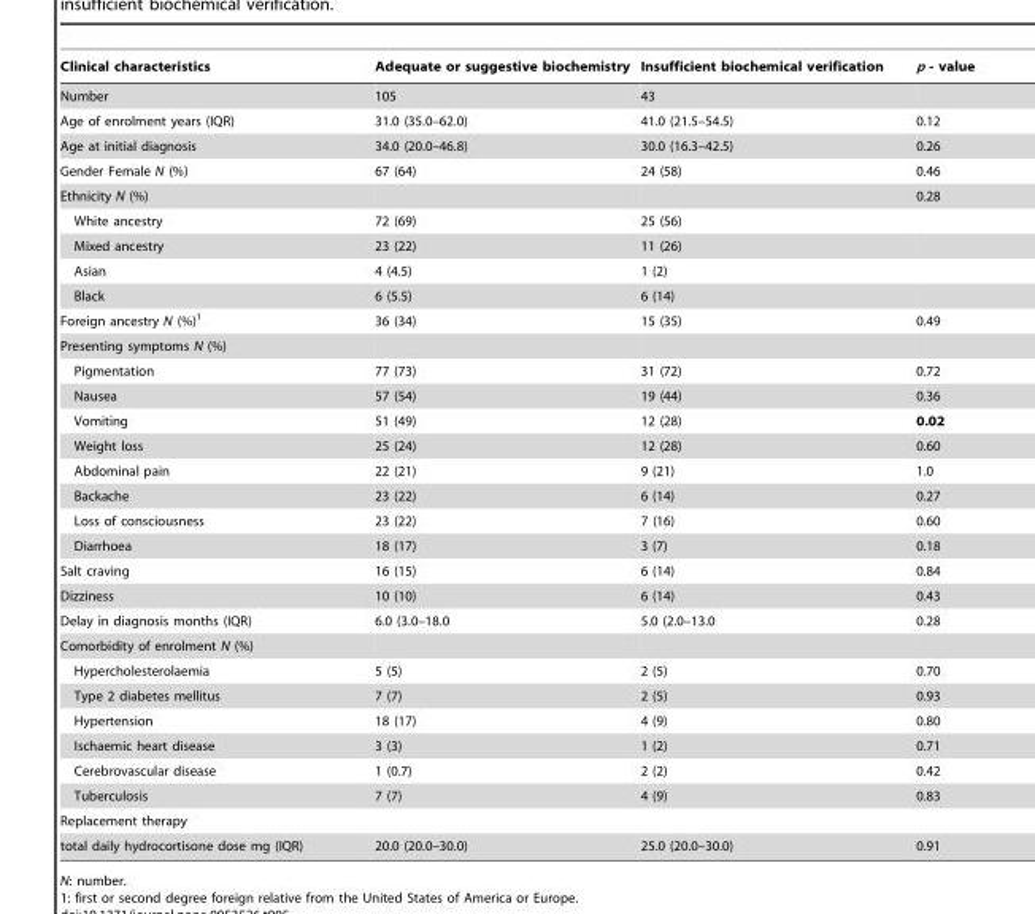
<table><thead><tr><td>Clinical characteristics</td><td>Adequate or suggestive biochemistry</td><td>Insufficient biochemical verification</td><td>p - value</td></tr></thead><tbody><tr><td>Number</td><td>105</td><td>43</td><td></td></tr><tr><td>Age of enrolment years (IQR)</td><td>31.0 (35.0–62.0)</td><td>41.0 (21.5–54.5)</td><td>0.12</td></tr><tr><td>Age at initial diagnosis</td><td>34.0 (20.0–46.8)</td><td>30.0 (16.3–42.5)</td><td>0.26</td></tr><tr><td>Gender Female N (%)</td><td>67 (64)</td><td>24 (58)</td><td>0.46</td></tr><tr><td>Ethnicity N (%)</td><td></td><td></td><td>0.28</td></tr><tr><td>White ancestry</td><td>72 (69)</td><td>25 (56)</td><td></td></tr><tr><td>Mixed ancestry</td><td>23 (22)</td><td>11 (26)</td><td></td></tr><tr><td>Asian</td><td>4 (4.5)</td><td>1 (2)</td><td></td></tr><tr><td>Black</td><td>6 (5.5)</td><td>6 (14)</td><td></td></tr><tr><td>Foreign ancestry N (%)<sup>1</sup></td><td>36 (34)</td><td>15 (35)</td><td>0.49</td></tr><tr><td colspan="4">Presenting symptoms N (%)</td></tr><tr><td>Pigmentation</td><td>77 (73)</td><td>31 (72)</td><td>0.72</td></tr><tr><td>Nausea</td><td>57 (54)</td><td>19 (44)</td><td>0.36</td></tr><tr><td>Vomiting</td><td>51 (49)</td><td>12 (28)</td><td>0.02</td></tr><tr><td>Weight loss</td><td>25 (24)</td><td>12 (28)</td><td>0.60</td></tr><tr><td>Abdominal pain</td><td>22 (21)</td><td>9 (21)</td><td>1.0</td></tr><tr><td>Backache</td><td>23 (22)</td><td>6 (14)</td><td>0.27</td></tr><tr><td>Loss of consciousness</td><td>23 (22)</td><td>7 (16)</td><td>0.60</td></tr><tr><td>Diarrhoea</td><td>18 (17)</td><td>3 (7)</td><td>0.18</td></tr><tr><td>Salt craving</td><td>16 (15)</td><td>6 (14)</td><td>0.84</td></tr><tr><td>Dizziness</td><td>10 (10)</td><td>6 (14)</td><td>0.43</td></tr><tr><td>Delay in diagnosis months (IQR)</td><td>6.0 (3.0–18.0</td><td>5.0 (2.0–13.0</td><td>0.28</td></tr><tr><td colspan="4">Comorbidity of enrolment N (%)</td></tr><tr><td>Hypercholesterolaemia</td><td>5 (5)</td><td>2 (5)</td><td>0.70</td></tr><tr><td>Type 2 diabetes mellitus</td><td>7 (7)</td><td>2 (5)</td><td>0.93</td></tr><tr><td>Hypertension</td><td>18 (17)</td><td>4 (9)</td><td>0.80</td></tr><tr><td>Ischaemic heart disease</td><td>3 (3)</td><td>1 (2)</td><td>0.71</td></tr><tr><td>Cerebrovascular disease</td><td>1 (0.7)</td><td>2 (2)</td><td>0.42</td></tr><tr><td>Tuberculosis</td><td>7 (7)</td><td>4 (9)</td><td>0.83</td></tr><tr><td colspan="4">Replacement therapy</td></tr><tr><td>total daily hydrocortisone dose mg (IQR)</td><td>20.0 (20.0–30.0)</td><td>25.0 (20.0–30.0)</td><td>0.91</td></tr></tbody></table>